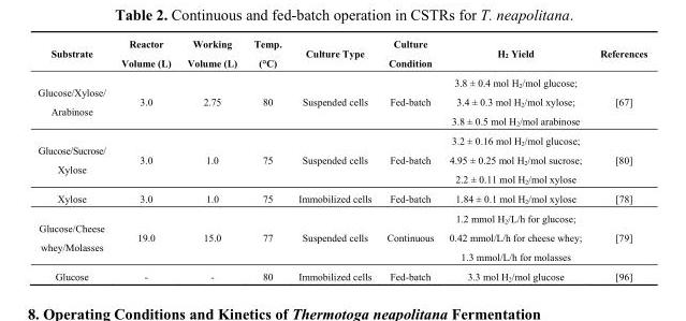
<table><thead><tr><td>Substrate</td><td>Reactor Volume (L)</td><td>Working Volume (L)</td><td>Temp. (°C)</td><td>Culture Type</td><td>Culture Condition</td><td>H<sub>2</sub> Yield</td><td>References</td></tr></thead><tbody><tr><td>Glucose/Xylose/ Arabinose</td><td>3.0</td><td>2.75</td><td>80</td><td>Suspended cells</td><td>Fed-batch</td><td>3.8 ± 0.4 mol H<sub>2</sub>/mol glucose; 3.4 ± 0.3 mol H<sub>2</sub>/mol xylose; 3.8 ± 0.5 mol H<sub>2</sub>/mol arabinose</td><td>[67]</td></tr><tr><td>Glucose/Sucrose/ Xylose</td><td>3.0</td><td>1.0</td><td>75</td><td>Suspended cells</td><td>Fed-batch</td><td>3.2 ± 0.16 mol H<sub>2</sub>/mol glucose; 4.95 ± 0.25 mol H<sub>2</sub>/mol sucrose; 2.2 ± 0.11 mol H<sub>2</sub>/mol xylose</td><td>[80]</td></tr><tr><td>Xylose</td><td>3.0</td><td>1.0</td><td>75</td><td>Immobilized cells</td><td>Fed-batch</td><td>1.84 ± 0.1 mol H<sub>2</sub>/mol xylose</td><td>[78]</td></tr><tr><td>Glucose/Cheese whey/Molasses</td><td>19.0</td><td>15.0</td><td>77</td><td>Suspended cells</td><td>Continuous</td><td>1.2 mmol H<sub>2</sub>/L/h for glucose; 0.42 mmol/L/h for cheese whey; 1.3 mmol/L/h for molasses</td><td>[79]</td></tr><tr><td>Glucose</td><td>-</td><td>-</td><td>80</td><td>Immobilized cells</td><td>Fed-batch</td><td>3.3 mol H<sub>2</sub>/mol glucose</td><td>[96]</td></tr></tbody></table>